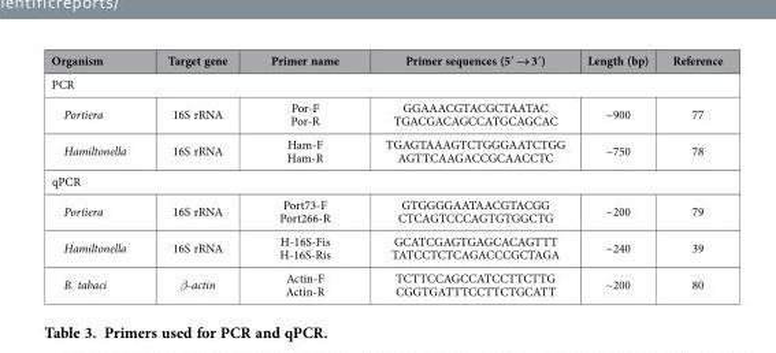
<table><thead><tr><td>Organism</td><td>Target gene</td><td>Primer name</td><td>Primer sequences (5′ → 3′)</td><td>Length (bp)</td><td>Reference</td></tr></thead><tbody><tr><td colspan="6">PCR</td></tr><tr><td>Portiera</td><td>16S rRNA</td><td>Por-F Por-R</td><td>GGAAACGTACGCTAATAC TGACGACAGCCATGCAGCAC</td><td>~900</td><td>77</td></tr><tr><td>Hamiltonella</td><td>16S rRNA</td><td>Ham-F Ham-R</td><td>TGAGTAAAGTCTGGGAATCTGG AGTTCAAGACCGCAACCTC</td><td>~750</td><td>78</td></tr><tr><td colspan="6">qPCR</td></tr><tr><td>Portiera</td><td>16S rRNA</td><td>Port73-F Port266-R</td><td>GTGGGGAATAACGTACGG CTCAGTCCCAGTGTGGCTG</td><td>~200</td><td>79</td></tr><tr><td>Hamiltonella</td><td>16S rRNA</td><td>H-16S-Fis H-16S-Ris</td><td>GCATCGAGTGAGCACAGTTT TATCCTCTCAGACCCGCTAGA</td><td>~240</td><td>39</td></tr><tr><td>B. tabaci</td><td>β-actin</td><td>Actin-F Actin-R</td><td>TCTTCCAGCCATCCTTCTTG CGGTGATTTCCTTCTGCATT</td><td>~200</td><td>80</td></tr></tbody></table>